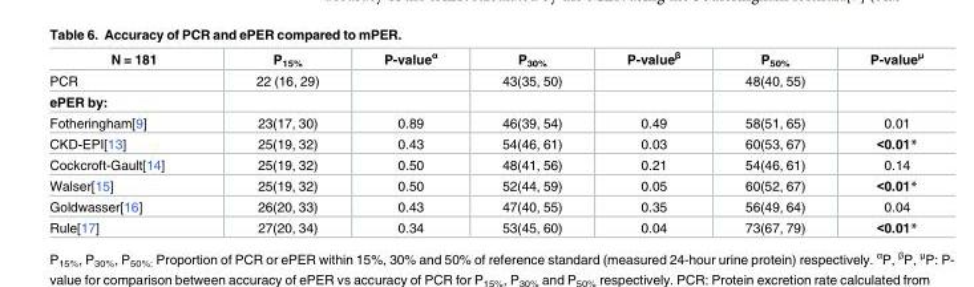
<table><thead><tr><td>N = 181</td><td>P<sub>15%</sub></td><td>P-value<sup>α</sup></td><td>P<sub>30%</sub></td><td>P-value<sup>β</sup></td><td>P<sub>50%</sub></td><td>P-value<sup>μ</sup></td></tr></thead><tbody><tr><td>PCR</td><td>22 (16, 29)</td><td></td><td>43(35, 50)</td><td></td><td>48(40, 55)</td><td></td></tr><tr><td colspan="7">ePER by:</td></tr><tr><td>Fotheringham[9]</td><td>23(17, 30)</td><td>0.89</td><td>46(39, 54)</td><td>0.49</td><td>58(51, 65)</td><td>0.01</td></tr><tr><td>CKD-EPI[13]</td><td>25(19, 32)</td><td>0.43</td><td>54(46, 61)</td><td>0.03</td><td>60(53, 67)</td><td>&lt;0.01*</td></tr><tr><td>Cockcroft-Gault[14]</td><td>25(19, 32)</td><td>0.50</td><td>48(41, 56)</td><td>0.21</td><td>54(46, 61)</td><td>0.14</td></tr><tr><td>Walser[15]</td><td>25(19, 32)</td><td>0.50</td><td>52(44, 59)</td><td>0.05</td><td>60(52, 67)</td><td>&lt;0.01*</td></tr><tr><td>Goldwasser[16]</td><td>26(20, 33)</td><td>0.43</td><td>47(40, 55)</td><td>0.35</td><td>56(49, 64)</td><td>0.04</td></tr><tr><td>Rule[17]</td><td>27(20, 34)</td><td>0.34</td><td>53(45, 60)</td><td>0.04</td><td>73(67, 79)</td><td>&lt;0.01*</td></tr></tbody></table>